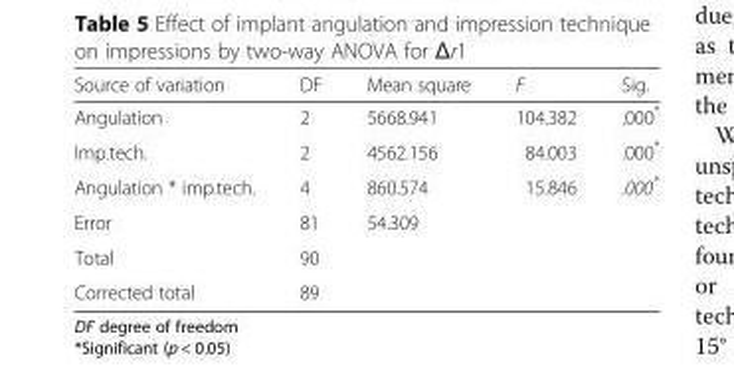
<table><thead><tr><td>Source of variation</td><td>DF</td><td>Mean square</td><td>F</td><td>Sig.</td></tr></thead><tbody><tr><td>Angulation</td><td>2</td><td>5668.941</td><td>104.382</td><td>.000*</td></tr><tr><td>Imp.tech.</td><td>2</td><td>4562.156</td><td>84.003</td><td>.000*</td></tr><tr><td>Angulation * imp.tech.</td><td>4</td><td>860.574</td><td>15.846</td><td>.000*</td></tr><tr><td>Error</td><td>81</td><td>54.309</td><td></td><td></td></tr><tr><td>Total</td><td>90</td><td></td><td></td><td></td></tr><tr><td>Corrected total</td><td>89</td><td></td><td></td><td></td></tr></tbody></table>